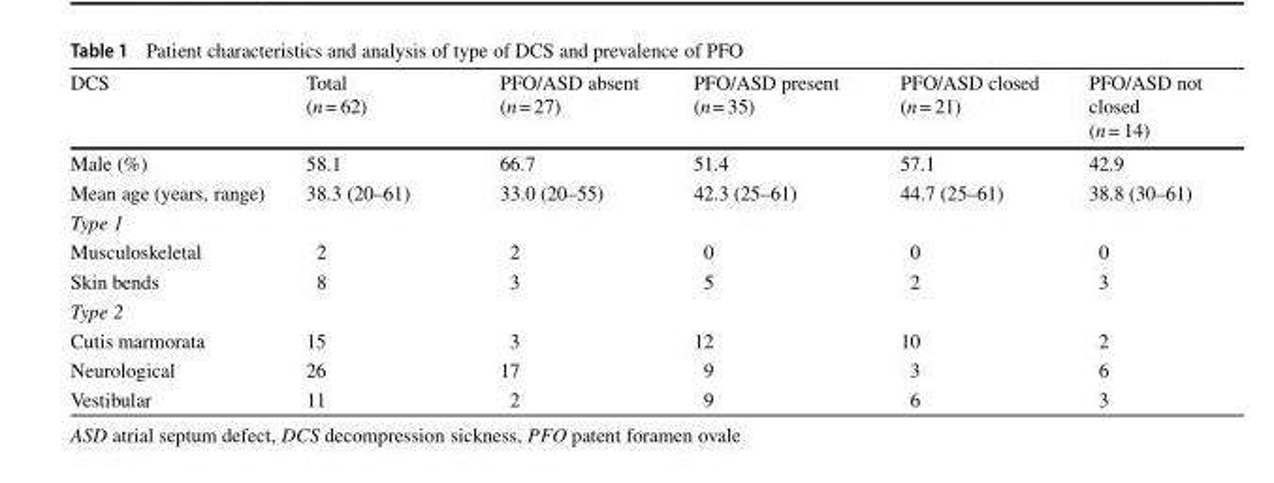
<table><thead><tr><td>DCS</td><td>Total (n= 62)</td><td>PFO/ASD absent (n= 27)</td><td>PFO/ASD present (n= 35)</td><td>PFO/ASD closed (n= 21)</td><td>PFO/ASD not closed (n= 14)</td></tr></thead><tbody><tr><td>Male (%)</td><td>58.1</td><td>66.7</td><td>51.4</td><td>57.1</td><td>42.9</td></tr><tr><td>Mean age (years, range)</td><td>38.3 (20–61)</td><td>33.0 (20–55)</td><td>42.3 (25–61)</td><td>44.7 (25–61)</td><td>38.8 (30–61)</td></tr><tr><td colspan="6">Type 1</td></tr><tr><td>Musculoskeletal</td><td>2</td><td>2</td><td>0</td><td>0</td><td>0</td></tr><tr><td>Skin bends</td><td>8</td><td>3</td><td>5</td><td>2</td><td>3</td></tr><tr><td colspan="6">Type 2</td></tr><tr><td>Cutis marmorata</td><td>15</td><td>3</td><td>12</td><td>10</td><td>2</td></tr><tr><td>Neurological</td><td>26</td><td>17</td><td>9</td><td>3</td><td>6</td></tr><tr><td>Vestibular</td><td>11</td><td>2</td><td>9</td><td>6</td><td>3</td></tr></tbody></table>